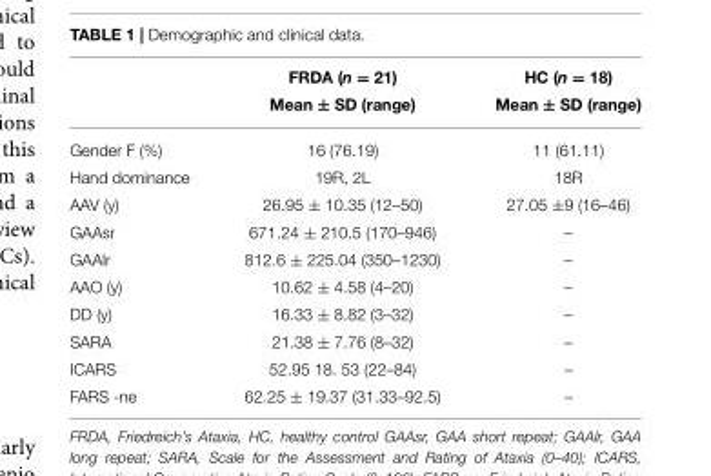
<table><thead><tr><td rowspan="2"></td><td rowspan="2">FRDA (n = 21) Mean ± SD (range)</td><td rowspan="2">HC (n = 18) Mean ± SD (range)</td></tr><tr></tr></thead><tbody><tr><td>Gender F (%)</td><td>16 (76.19)</td><td>11 (61.11)</td></tr><tr><td>Hand dominance</td><td>19R, 2L</td><td>18R</td></tr><tr><td>AAV (y)</td><td>26.95 ± 10.35 (12–50)</td><td>27.05 ±9 (16–46)</td></tr><tr><td>GAAsr</td><td>671.24 ± 210.5 (170–946)</td><td>–</td></tr><tr><td>GAAlr</td><td>812.6 ± 225.04 (350–1230)</td><td>–</td></tr><tr><td>AAO (y)</td><td>10.62 ± 4.58 (4–20)</td><td>–</td></tr><tr><td>DD (y)</td><td>16.33 ± 8.82 (3–32)</td><td>–</td></tr><tr><td>SARA</td><td>21.38 ± 7.76 (8–32)</td><td>–</td></tr><tr><td>ICARS</td><td>52.95 18. 53 (22–84)</td><td>–</td></tr><tr><td>FARS -ne</td><td>62.25 ± 19.37 (31.33–92.5)</td><td>–</td></tr></tbody></table>